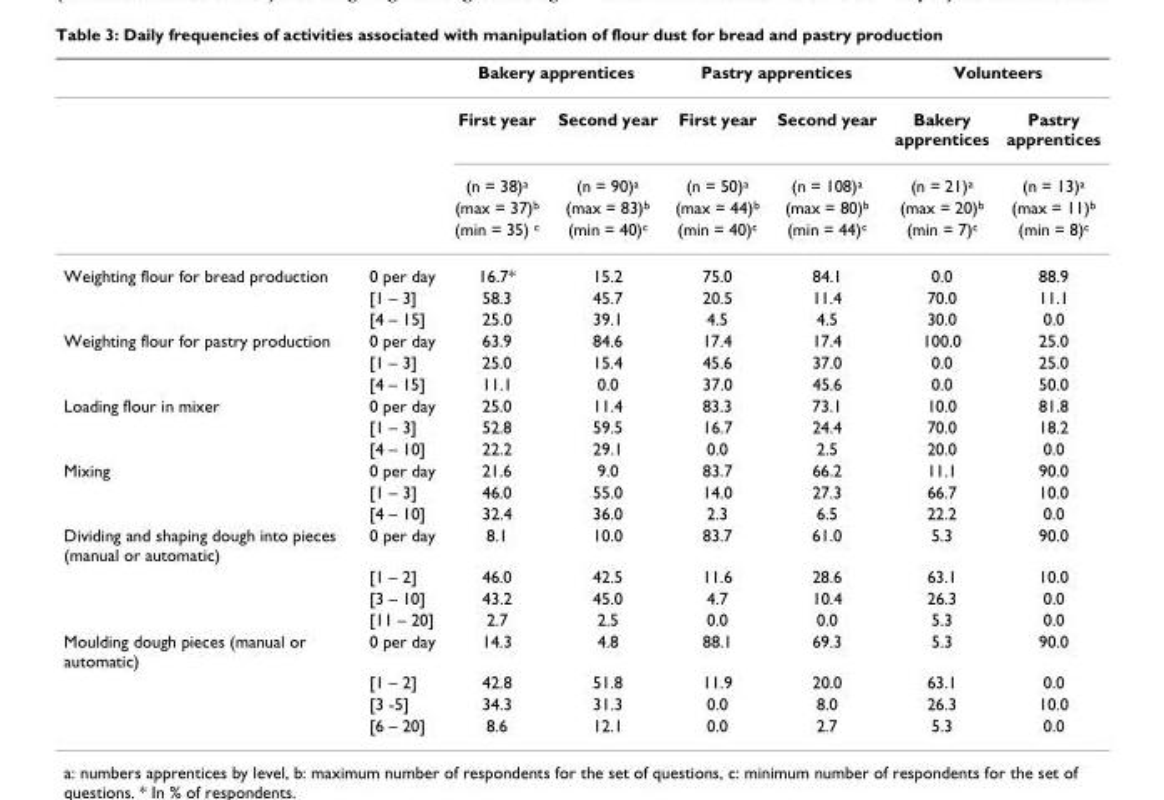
<table><thead><tr><td rowspan="2"></td><td rowspan="2"></td><td colspan="2">Bakery apprentices</td><td colspan="2">Pastry apprentices</td><td colspan="2">Volunteers</td></tr><tr><td>First year</td><td>Second year</td><td>First year</td><td>Second year</td><td>Bakery apprentices</td><td>Pastry apprentices</td></tr></thead><tbody><tr><td></td><td></td><td>(n = 38)<sup>a</sup></td><td>(n = 90)<sup>a</sup></td><td>(n = 50)<sup>a</sup></td><td>(n = 108)<sup>a</sup></td><td>(n = 21)<sup>a</sup></td><td>(n = 13)<sup>a</sup></td></tr><tr><td></td><td></td><td>(max = 37)<sup>b</sup></td><td>(max = 83)<sup>b</sup></td><td>(max = 44)<sup>b</sup></td><td>(max = 80)<sup>b</sup></td><td>(max = 20)<sup>b</sup></td><td>(max = 11)<sup>b</sup></td></tr><tr><td></td><td></td><td>(min = 35) <sup>c</sup></td><td>(min = 40)<sup>c</sup></td><td>(min = 40)<sup>c</sup></td><td>(min = 44)<sup>c</sup></td><td>(min = 7)<sup>c</sup></td><td>(min = 8)<sup>c</sup></td></tr><tr><td rowspan="3">Weighting flour for bread production</td><td>0 per day</td><td>16.7*</td><td>15.2</td><td>75.0</td><td>84.1</td><td>0.0</td><td>88.9</td></tr><tr><td>[1 – 3]</td><td>58.3</td><td>45.7</td><td>20.5</td><td>11.4</td><td>70.0</td><td>11.1</td></tr><tr><td>[4 – 15]</td><td>25.0</td><td>39.1</td><td>4.5</td><td>4.5</td><td>30.0</td><td>0.0</td></tr><tr><td rowspan="3">Weighting flour for pastry production</td><td>0 per day</td><td>63.9</td><td>84.6</td><td>17.4</td><td>17.4</td><td>100.0</td><td>25.0</td></tr><tr><td>[1 – 3]</td><td>25.0</td><td>15.4</td><td>45.6</td><td>37.0</td><td>0.0</td><td>25.0</td></tr><tr><td>[4 – 15]</td><td>11.1</td><td>0.0</td><td>37.0</td><td>45.6</td><td>0.0</td><td>50.0</td></tr><tr><td rowspan="3">Loading flour in mixer</td><td>0 per day</td><td>25.0</td><td>11.4</td><td>83.3</td><td>73.1</td><td>10.0</td><td>81.8</td></tr><tr><td>[1 – 3]</td><td>52.8</td><td>59.5</td><td>16.7</td><td>24.4</td><td>70.0</td><td>18.2</td></tr><tr><td>[4 – 10]</td><td>22.2</td><td>29.1</td><td>0.0</td><td>2.5</td><td>20.0</td><td>0.0</td></tr><tr><td rowspan="3">Mixing</td><td>0 per day</td><td>21.6</td><td>9.0</td><td>83.7</td><td>66.2</td><td>11.1</td><td>90.0</td></tr><tr><td>[1 – 3]</td><td>46.0</td><td>55.0</td><td>14.0</td><td>27.3</td><td>66.7</td><td>10.0</td></tr><tr><td>[4 – 10]</td><td>32.4</td><td>36.0</td><td>2.3</td><td>6.5</td><td>22.2</td><td>0.0</td></tr><tr><td rowspan="4">Dividing and shaping dough into pieces (manual or automatic)</td><td>0 per day</td><td>8.1</td><td>10.0</td><td>83.7</td><td>61.0</td><td>5.3</td><td>90.0</td></tr><tr><td>[1 – 2]</td><td>46.0</td><td>42.5</td><td>11.6</td><td>28.6</td><td>63.1</td><td>10.0</td></tr><tr><td>[3 – 10]</td><td>43.2</td><td>45.0</td><td>4.7</td><td>10.4</td><td>26.3</td><td>0.0</td></tr><tr><td>[11 – 20]</td><td>2.7</td><td>2.5</td><td>0.0</td><td>0.0</td><td>5.3</td><td>0.0</td></tr><tr><td rowspan="4">Moulding dough pieces (manual or automatic)</td><td>0 per day</td><td>14.3</td><td>4.8</td><td>88.1</td><td>69.3</td><td>5.3</td><td>90.0</td></tr><tr><td>[1 – 2]</td><td>42.8</td><td>51.8</td><td>11.9</td><td>20.0</td><td>63.1</td><td>0.0</td></tr><tr><td>[3 -5]</td><td>34.3</td><td>31.3</td><td>0.0</td><td>8.0</td><td>26.3</td><td>10.0</td></tr><tr><td>[6 – 20]</td><td>8.6</td><td>12.1</td><td>0.0</td><td>2.7</td><td>5.3</td><td>0.0</td></tr></tbody></table>